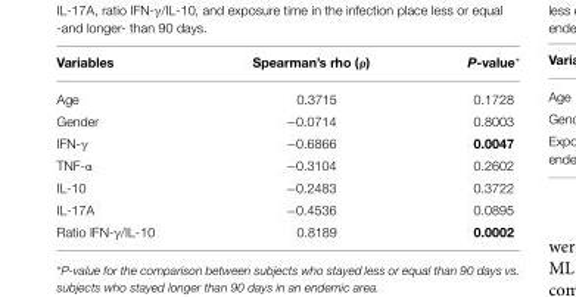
<table><thead><tr><td>Variables</td><td>Spearman’s rho (ρ)</td><td>P-value*</td></tr></thead><tbody><tr><td>Age</td><td>0.3715</td><td>0.1728</td></tr><tr><td>Gender</td><td>−0.0714</td><td>0.8003</td></tr><tr><td>IFN-γ</td><td>−0.6866</td><td>0.0047</td></tr><tr><td>TNF-α</td><td>−0.3104</td><td>0.2602</td></tr><tr><td>IL-10</td><td>−0.2483</td><td>0.3722</td></tr><tr><td>IL-17A</td><td>−0.4536</td><td>0.0895</td></tr><tr><td>Ratio IFN-γ/IL-10</td><td>0.8189</td><td>0.0002</td></tr></tbody></table>